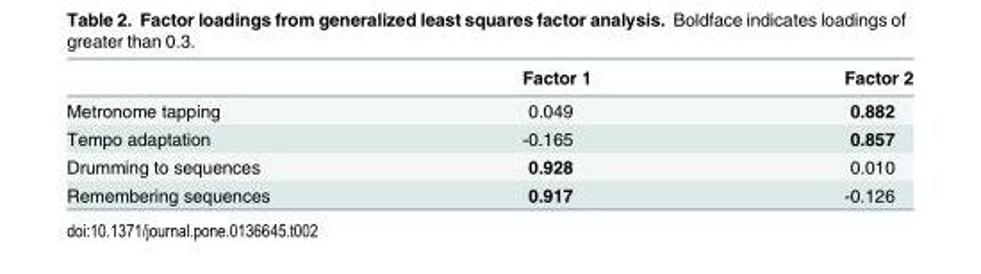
<table><thead><tr><td></td><td>Factor 1</td><td>Factor 2</td></tr></thead><tbody><tr><td>Metronome tapping</td><td>0.049</td><td>0.882</td></tr><tr><td>Tempo adaptation</td><td>-0.165</td><td>0.857</td></tr><tr><td>Drumming to sequences</td><td>0.928</td><td>0.010</td></tr><tr><td>Remembering sequences</td><td>0.917</td><td>-0.126</td></tr></tbody></table>